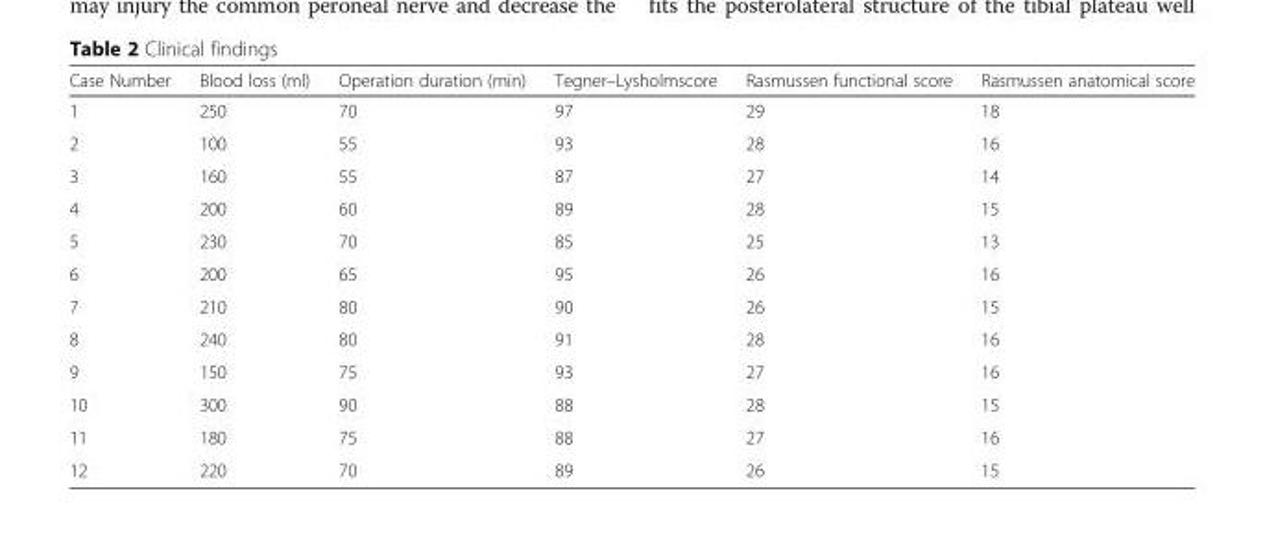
<table><thead><tr><td>Case Number</td><td>Blood loss (ml)</td><td>Operation duration (min)</td><td>Tegner–Lysholmscore</td><td>Rasmussen functional score</td><td>Rasmussen anatomical score</td></tr></thead><tbody><tr><td>1</td><td>250</td><td>70</td><td>97</td><td>29</td><td>18</td></tr><tr><td>2</td><td>100</td><td>55</td><td>93</td><td>28</td><td>16</td></tr><tr><td>3</td><td>160</td><td>55</td><td>87</td><td>27</td><td>14</td></tr><tr><td>4</td><td>200</td><td>60</td><td>89</td><td>28</td><td>15</td></tr><tr><td>5</td><td>230</td><td>70</td><td>85</td><td>25</td><td>13</td></tr><tr><td>6</td><td>200</td><td>65</td><td>95</td><td>26</td><td>16</td></tr><tr><td>7</td><td>210</td><td>80</td><td>90</td><td>26</td><td>15</td></tr><tr><td>8</td><td>240</td><td>80</td><td>91</td><td>28</td><td>16</td></tr><tr><td>9</td><td>150</td><td>75</td><td>93</td><td>27</td><td>16</td></tr><tr><td>10</td><td>300</td><td>90</td><td>88</td><td>28</td><td>15</td></tr><tr><td>11</td><td>180</td><td>75</td><td>88</td><td>27</td><td>16</td></tr><tr><td>12</td><td>220</td><td>70</td><td>89</td><td>26</td><td>15</td></tr></tbody></table>